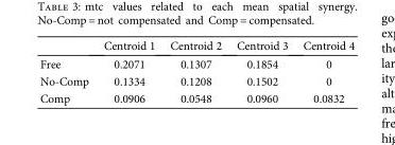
<table><thead><tr><td></td><td>Centroid 1</td><td>Centroid 2</td><td>Centroid 3</td><td>Centroid 4</td></tr></thead><tbody><tr><td>Free</td><td>0.2071</td><td>0.1307</td><td>0.1854</td><td>0</td></tr><tr><td>No-Comp</td><td>0.1334</td><td>0.1208</td><td>0.1502</td><td>0</td></tr><tr><td>Comp</td><td>0.0906</td><td>0.0548</td><td>0.0960</td><td>0.0832</td></tr></tbody></table>